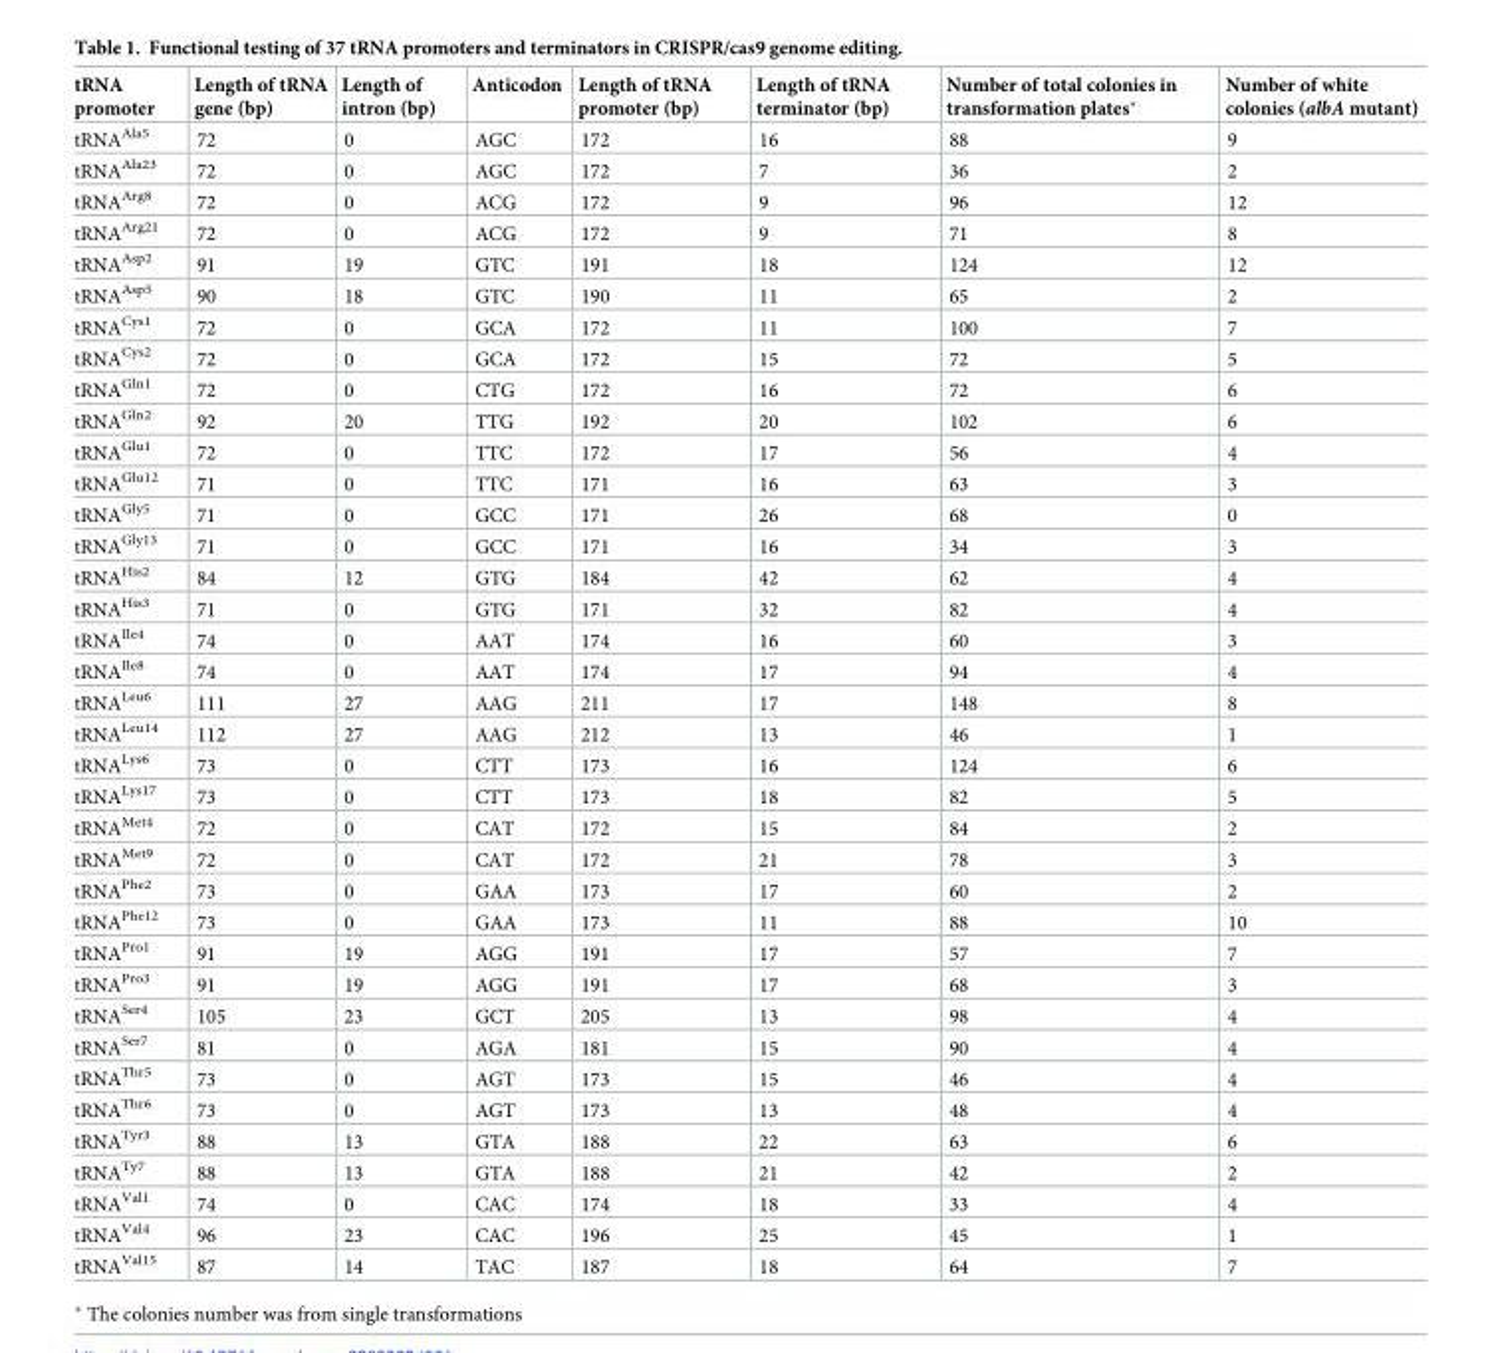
<table><thead><tr><td>tRNA promoter</td><td>Length of tRNA gene (bp)</td><td>Length of intron (bp)</td><td>Anticodon</td><td>Length of tRNA promoter (bp)</td><td>Length of tRNA terminator (bp)</td><td>Number of total colonies in transformation plates*</td><td>Number of white colonies (albA mutant)</td></tr></thead><tbody><tr><td>tRNA<sup>Ala5</sup></td><td>72</td><td>0</td><td>AGC</td><td>172</td><td>16</td><td>88</td><td>9</td></tr><tr><td>tRNA<sup>Ala23</sup></td><td>72</td><td>0</td><td>AGC</td><td>172</td><td>7</td><td>36</td><td>2</td></tr><tr><td>tRNA<sup>Arg8</sup></td><td>72</td><td>0</td><td>ACG</td><td>172</td><td>9</td><td>96</td><td>12</td></tr><tr><td>tRNA<sup>Arg21</sup></td><td>72</td><td>0</td><td>ACG</td><td>172</td><td>9</td><td>71</td><td>8</td></tr><tr><td>tRNA<sup>Asp2</sup></td><td>91</td><td>19</td><td>GTC</td><td>191</td><td>18</td><td>124</td><td>12</td></tr><tr><td>tRNA<sup>Asp5</sup></td><td>90</td><td>18</td><td>GTC</td><td>190</td><td>11</td><td>65</td><td>2</td></tr><tr><td>tRNA<sup>Cys1</sup></td><td>72</td><td>0</td><td>GCA</td><td>172</td><td>11</td><td>100</td><td>7</td></tr><tr><td>tRNA<sup>Cys2</sup></td><td>72</td><td>0</td><td>GCA</td><td>172</td><td>15</td><td>72</td><td>5</td></tr><tr><td>tRNA<sup>Gln1</sup></td><td>72</td><td>0</td><td>CTG</td><td>172</td><td>16</td><td>72</td><td>6</td></tr><tr><td>tRNA<sup>Gln2</sup></td><td>92</td><td>20</td><td>TTG</td><td>192</td><td>20</td><td>102</td><td>6</td></tr><tr><td>tRNA<sup>Glu1</sup></td><td>72</td><td>0</td><td>TTC</td><td>172</td><td>17</td><td>56</td><td>4</td></tr><tr><td>tRNA<sup>Glu12</sup></td><td>71</td><td>0</td><td>TTC</td><td>171</td><td>16</td><td>63</td><td>3</td></tr><tr><td>tRNA<sup>Gly5</sup></td><td>71</td><td>0</td><td>GCC</td><td>171</td><td>26</td><td>68</td><td>0</td></tr><tr><td>tRNA<sup>Gly13</sup></td><td>71</td><td>0</td><td>GCC</td><td>171</td><td>16</td><td>34</td><td>3</td></tr><tr><td>tRNA<sup>His2</sup></td><td>84</td><td>12</td><td>GTG</td><td>184</td><td>42</td><td>62</td><td>4</td></tr><tr><td>tRNA<sup>His3</sup></td><td>71</td><td>0</td><td>GTG</td><td>171</td><td>32</td><td>82</td><td>4</td></tr><tr><td>tRNA<sup>Ile4</sup></td><td>74</td><td>0</td><td>AAT</td><td>174</td><td>16</td><td>60</td><td>3</td></tr><tr><td>tRNA<sup>Ile8</sup></td><td>74</td><td>0</td><td>AAT</td><td>174</td><td>17</td><td>94</td><td>4</td></tr><tr><td>tRNA<sup>Leu6</sup></td><td>111</td><td>27</td><td>AAG</td><td>211</td><td>17</td><td>148</td><td>8</td></tr><tr><td>tRNA<sup>Leu14</sup></td><td>112</td><td>27</td><td>AAG</td><td>212</td><td>13</td><td>46</td><td>1</td></tr><tr><td>tRNA<sup>Lys6</sup></td><td>73</td><td>0</td><td>CTT</td><td>173</td><td>16</td><td>124</td><td>6</td></tr><tr><td>tRNA<sup>Lys17</sup></td><td>73</td><td>0</td><td>CTT</td><td>173</td><td>18</td><td>82</td><td>5</td></tr><tr><td>tRNA<sup>Met4</sup></td><td>72</td><td>0</td><td>CAT</td><td>172</td><td>15</td><td>84</td><td>2</td></tr><tr><td>tRNA<sup>Met9</sup></td><td>72</td><td>0</td><td>CAT</td><td>172</td><td>21</td><td>78</td><td>3</td></tr><tr><td>tRNA<sup>Phe2</sup></td><td>73</td><td>0</td><td>GAA</td><td>173</td><td>17</td><td>60</td><td>2</td></tr><tr><td>tRNA<sup>Phe12</sup></td><td>73</td><td>0</td><td>GAA</td><td>173</td><td>11</td><td>88</td><td>10</td></tr><tr><td>tRNA<sup>Pro1</sup></td><td>91</td><td>19</td><td>AGG</td><td>191</td><td>17</td><td>57</td><td>7</td></tr><tr><td>tRNA<sup>Pro3</sup></td><td>91</td><td>19</td><td>AGG</td><td>191</td><td>17</td><td>68</td><td>3</td></tr><tr><td>tRNA<sup>Ser4</sup></td><td>105</td><td>23</td><td>GCT</td><td>205</td><td>13</td><td>98</td><td>4</td></tr><tr><td>tRNA<sup>Ser7</sup></td><td>81</td><td>0</td><td>AGA</td><td>181</td><td>15</td><td>90</td><td>4</td></tr><tr><td>tRNA<sup>Thr5</sup></td><td>73</td><td>0</td><td>AGT</td><td>173</td><td>15</td><td>46</td><td>4</td></tr><tr><td>tRNA<sup>Thr6</sup></td><td>73</td><td>0</td><td>AGT</td><td>173</td><td>13</td><td>48</td><td>4</td></tr><tr><td>tRNA<sup>Tyr3</sup></td><td>88</td><td>13</td><td>GTA</td><td>188</td><td>22</td><td>63</td><td>6</td></tr><tr><td>tRNA<sup>Ty7</sup></td><td>88</td><td>13</td><td>GTA</td><td>188</td><td>21</td><td>42</td><td>2</td></tr><tr><td>tRNA<sup>Val1</sup></td><td>74</td><td>0</td><td>CAC</td><td>174</td><td>18</td><td>33</td><td>4</td></tr><tr><td>tRNA<sup>Val4</sup></td><td>96</td><td>23</td><td>CAC</td><td>196</td><td>25</td><td>45</td><td>1</td></tr><tr><td>tRNA<sup>Val15</sup></td><td>87</td><td>14</td><td>TAC</td><td>187</td><td>18</td><td>64</td><td>7</td></tr></tbody></table>